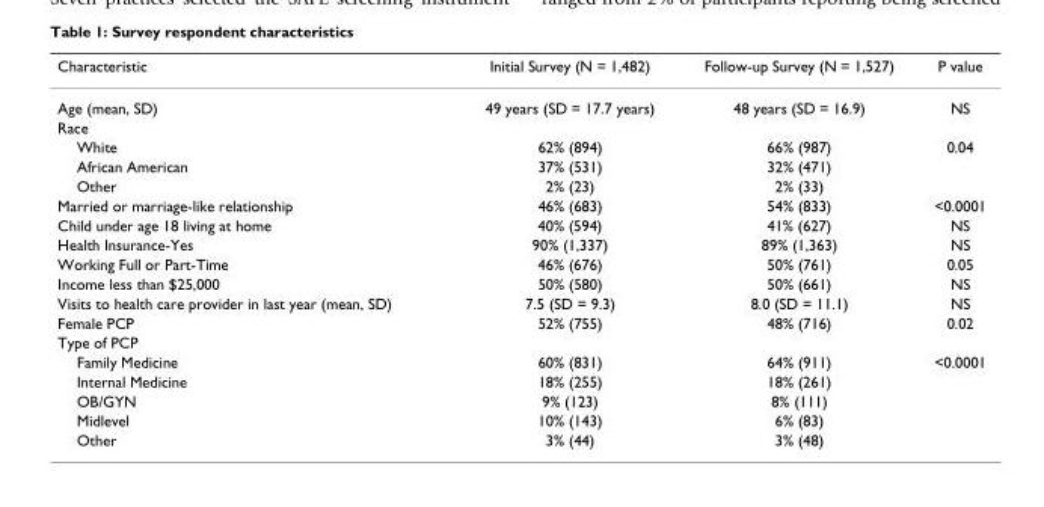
<table><thead><tr><td>Characteristic</td><td>Initial Survey (N = 1,482)</td><td>Follow-up Survey (N = 1,527)</td><td>P value</td></tr></thead><tbody><tr><td>Age (mean, SD)</td><td>49 years (SD = 17.7 years)</td><td>48 years (SD = 16.9)</td><td>NS</td></tr><tr><td colspan="4">Race</td></tr><tr><td>White</td><td>62% (894)</td><td>66% (987)</td><td>0.04</td></tr><tr><td>African American</td><td>37% (531)</td><td>32% (471)</td><td></td></tr><tr><td>Other</td><td>2% (23)</td><td>2% (33)</td><td></td></tr><tr><td>Married or marriage-like relationship</td><td>46% (683)</td><td>54% (833)</td><td>&lt;0.0001</td></tr><tr><td>Child under age 18 living at home</td><td>40% (594)</td><td>41% (627)</td><td>NS</td></tr><tr><td>Health Insurance-Yes</td><td>90% (1,337)</td><td>89% (1,363)</td><td>NS</td></tr><tr><td>Working Full or Part-Time</td><td>46% (676)</td><td>50% (761)</td><td>0.05</td></tr><tr><td>Income less than $25,000</td><td>50% (580)</td><td>50% (661)</td><td>NS</td></tr><tr><td>Visits to health care provider in last year (mean, SD)</td><td>7.5 (SD = 9.3)</td><td>8.0 (SD = 11.1)</td><td>NS</td></tr><tr><td>Female PCP</td><td>52% (755)</td><td>48% (716)</td><td>0.02</td></tr><tr><td colspan="4">Type of PCP</td></tr><tr><td>Family Medicine</td><td>60% (831)</td><td>64% (911)</td><td>&lt;0.0001</td></tr><tr><td>Internal Medicine</td><td>18% (255)</td><td>18% (261)</td><td></td></tr><tr><td>OB/GYN</td><td>9% (123)</td><td>8% (111)</td><td></td></tr><tr><td>Midlevel</td><td>10% (143)</td><td>6% (83)</td><td></td></tr><tr><td>Other</td><td>3% (44)</td><td>3% (48)</td><td></td></tr></tbody></table>